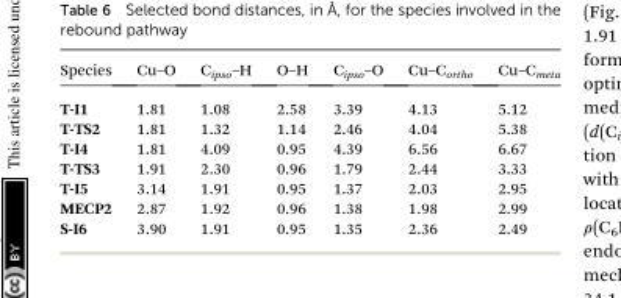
<table><thead><tr><td>Species</td><td>Cu–O</td><td>C<sub>ipso</sub>–H</td><td>O–H</td><td>C<sub>ipso</sub>–O</td><td>Cu–C<sub>ortho</sub></td><td>Cu–C<sub>meta</sub></td></tr></thead><tbody><tr><td>T-I1</td><td>1.81</td><td>1.08</td><td>2.58</td><td>3.39</td><td>4.13</td><td>5.12</td></tr><tr><td>T-TS2</td><td>1.81</td><td>1.32</td><td>1.14</td><td>2.46</td><td>4.04</td><td>5.38</td></tr><tr><td>T-I4</td><td>1.81</td><td>4.09</td><td>0.95</td><td>4.39</td><td>6.56</td><td>6.67</td></tr><tr><td>T-TS3</td><td>1.91</td><td>2.30</td><td>0.96</td><td>1.79</td><td>2.44</td><td>3.33</td></tr><tr><td>T-I5</td><td>3.14</td><td>1.91</td><td>0.95</td><td>1.37</td><td>2.03</td><td>2.95</td></tr><tr><td>MECP2</td><td>2.87</td><td>1.92</td><td>0.96</td><td>1.38</td><td>1.98</td><td>2.99</td></tr><tr><td>S-I6</td><td>3.90</td><td>1.91</td><td>0.95</td><td>1.35</td><td>2.36</td><td>2.49</td></tr></tbody></table>